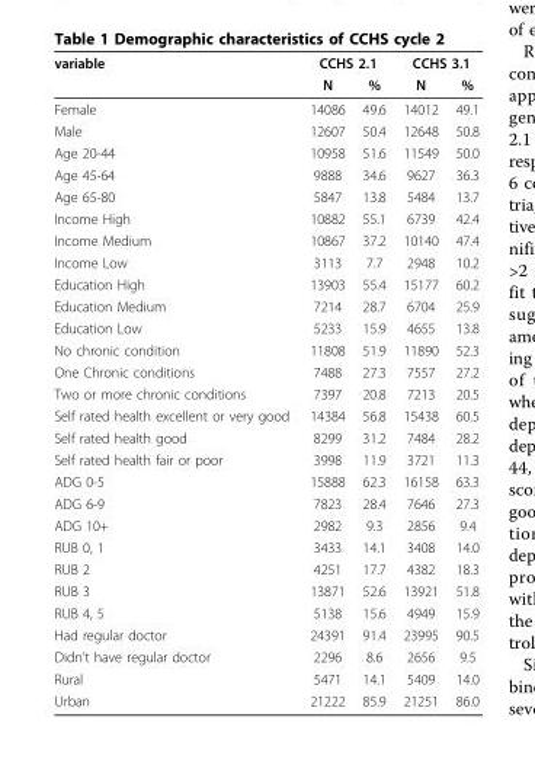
<table><thead><tr><td rowspan="2">variable</td><td colspan="2">CCHS 2.1</td><td colspan="2">CCHS 3.1</td></tr><tr><td>N</td><td>%</td><td>N</td><td>%</td></tr></thead><tbody><tr><td>Female</td><td>14086</td><td>49.6</td><td>14012</td><td>49.1</td></tr><tr><td>Male</td><td>12607</td><td>50.4</td><td>12648</td><td>50.8</td></tr><tr><td>Age 20-44</td><td>10958</td><td>51.6</td><td>11549</td><td>50.0</td></tr><tr><td>Age 45-64</td><td>9888</td><td>34.6</td><td>9627</td><td>36.3</td></tr><tr><td>Age 65-80</td><td>5847</td><td>13.8</td><td>5484</td><td>13.7</td></tr><tr><td>Income High</td><td>10882</td><td>55.1</td><td>6739</td><td>42.4</td></tr><tr><td>Income Medium</td><td>10867</td><td>37.2</td><td>10140</td><td>47.4</td></tr><tr><td>Income Low</td><td>3113</td><td>7.7</td><td>2948</td><td>10.2</td></tr><tr><td>Education High</td><td>13903</td><td>55.4</td><td>15177</td><td>60.2</td></tr><tr><td>Education Medium</td><td>7214</td><td>28.7</td><td>6704</td><td>25.9</td></tr><tr><td>Education Low</td><td>5233</td><td>15.9</td><td>4655</td><td>13.8</td></tr><tr><td>No chronic condition</td><td>11808</td><td>51.9</td><td>11890</td><td>52.3</td></tr><tr><td>One Chronic conditions</td><td>7488</td><td>27.3</td><td>7557</td><td>27.2</td></tr><tr><td>Two or more chronic conditions</td><td>7397</td><td>20.8</td><td>7213</td><td>20.5</td></tr><tr><td>Self rated health excellent or very good</td><td>14384</td><td>56.8</td><td>15438</td><td>60.5</td></tr><tr><td>Self rated health good</td><td>8299</td><td>31.2</td><td>7484</td><td>28.2</td></tr><tr><td>Self rated health fair or poor</td><td>3998</td><td>11.9</td><td>3721</td><td>11.3</td></tr><tr><td>ADG 0-5</td><td>15888</td><td>62.3</td><td>16158</td><td>63.3</td></tr><tr><td>ADG 6-9</td><td>7823</td><td>28.4</td><td>7646</td><td>27.3</td></tr><tr><td>ADG 10+</td><td>2982</td><td>9.3</td><td>2856</td><td>9.4</td></tr><tr><td>RUB 0, 1</td><td>3433</td><td>14.1</td><td>3408</td><td>14.0</td></tr><tr><td>RUB 2</td><td>4251</td><td>17.7</td><td>4382</td><td>18.3</td></tr><tr><td>RUB 3</td><td>13871</td><td>52.6</td><td>13921</td><td>51.8</td></tr><tr><td>RUB 4, 5</td><td>5138</td><td>15.6</td><td>4949</td><td>15.9</td></tr><tr><td>Had regular doctor</td><td>24391</td><td>91.4</td><td>23995</td><td>90.5</td></tr><tr><td>Didn’t have regular doctor</td><td>2296</td><td>8.6</td><td>2656</td><td>9.5</td></tr><tr><td>Rural</td><td>5471</td><td>14.1</td><td>5409</td><td>14.0</td></tr><tr><td>Urban</td><td>21222</td><td>85.9</td><td>21251</td><td>86.0</td></tr></tbody></table>